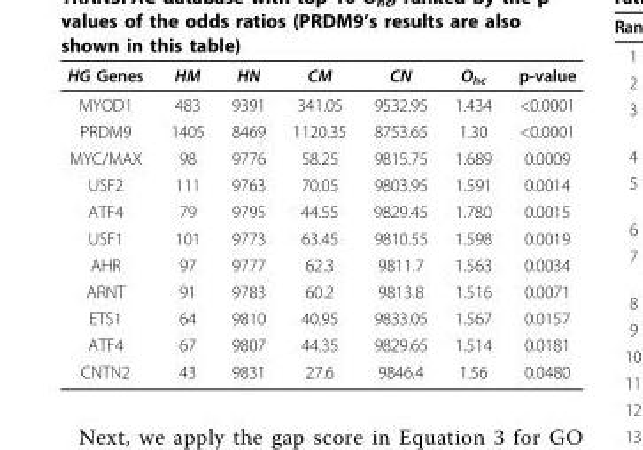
<table><thead><tr><td>HG Genes</td><td>HM</td><td>HN</td><td>CM</td><td>CN</td><td>O<sub>hc</sub></td><td>p-value</td></tr></thead><tbody><tr><td>MYOD1</td><td>483</td><td>9391</td><td>341.05</td><td>9532.95</td><td>1.434</td><td>&lt;0.0001</td></tr><tr><td>PRDM9</td><td>1405</td><td>8469</td><td>1120.35</td><td>8753.65</td><td>1.30</td><td>&lt;0.0001</td></tr><tr><td>MYC/MAX</td><td>98</td><td>9776</td><td>58.25</td><td>9815.75</td><td>1.689</td><td>0.0009</td></tr><tr><td>USF2</td><td>111</td><td>9763</td><td>70.05</td><td>9803.95</td><td>1.591</td><td>0.0014</td></tr><tr><td>ATF4</td><td>79</td><td>9795</td><td>44.55</td><td>9829.45</td><td>1.780</td><td>0.0015</td></tr><tr><td>USF1</td><td>101</td><td>9773</td><td>63.45</td><td>9810.55</td><td>1.598</td><td>0.0019</td></tr><tr><td>AHR</td><td>97</td><td>9777</td><td>62.3</td><td>9811.7</td><td>1.563</td><td>0.0034</td></tr><tr><td>ARNT</td><td>91</td><td>9783</td><td>60.2</td><td>9813.8</td><td>1.516</td><td>0.0071</td></tr><tr><td>ETS1</td><td>64</td><td>9810</td><td>40.95</td><td>9833.05</td><td>1.567</td><td>0.0157</td></tr><tr><td>ATF4</td><td>67</td><td>9807</td><td>44.35</td><td>9829.65</td><td>1.514</td><td>0.0181</td></tr><tr><td>CNTN2</td><td>43</td><td>9831</td><td>27.6</td><td>9846.4</td><td>1.56</td><td>0.0480</td></tr></tbody></table>